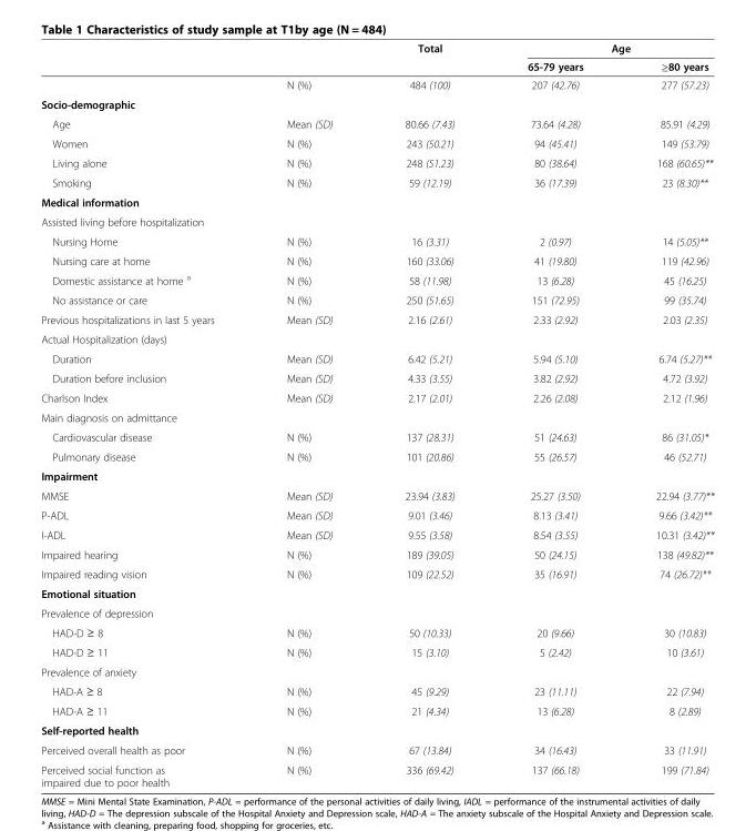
<table><thead><tr><td rowspan="2"></td><td rowspan="2"></td><td rowspan="2">Total</td><td colspan="2">Age</td></tr><tr><td>65-79 years</td><td>≥80 years</td></tr></thead><tbody><tr><td></td><td>N (%)</td><td>484 (100)</td><td>207 (42.76)</td><td>277 (57.23)</td></tr><tr><td colspan="5">Socio-demographic</td></tr><tr><td>Age</td><td>Mean (SD)</td><td>80.66 (7.43)</td><td>73.64 (4.28)</td><td>85.91 (4.29)</td></tr><tr><td>Women</td><td>N (%)</td><td>243 (50.21)</td><td>94 (45.41)</td><td>149 (53.79)</td></tr><tr><td>Living alone</td><td>N (%)</td><td>248 (51.23)</td><td>80 (38.64)</td><td>168 (60.65)**</td></tr><tr><td>Smoking</td><td>N (%)</td><td>59 (12.19)</td><td>36 (17.39)</td><td>23 (8.30)**</td></tr><tr><td colspan="5">Medical information</td></tr><tr><td colspan="5">Assisted living before hospitalization</td></tr><tr><td>Nursing Home</td><td>N (%)</td><td>16 (3.31)</td><td>2 (0.97)</td><td>14 (5.05)**</td></tr><tr><td>Nursing care at home</td><td>N (%)</td><td>160 (33.06)</td><td>41 (19.80)</td><td>119 (42.96)</td></tr><tr><td>Domestic assistance at home <sup>a</sup></td><td>N (%)</td><td>58 (11.98)</td><td>13 (6.28)</td><td>45 (16.25)</td></tr><tr><td>No assistance or care</td><td>N (%)</td><td>250 (51.65)</td><td>151 (72.95)</td><td>99 (35.74)</td></tr><tr><td>Previous hospitalizations in last 5 years</td><td>Mean (SD)</td><td>2.16 (2.61)</td><td>2.33 (2.92)</td><td>2.03 (2.35)</td></tr><tr><td colspan="5">Actual Hospitalization (days)</td></tr><tr><td>Duration</td><td>Mean (SD)</td><td>6.42 (5.21)</td><td>5.94 (5.10)</td><td>6.74 (5.27)**</td></tr><tr><td>Duration before inclusion</td><td>Mean (SD)</td><td>4.33 (3.55)</td><td>3.82 (2.92)</td><td>4.72 (3.92)</td></tr><tr><td>Charlson Index</td><td>Mean (SD)</td><td>2.17 (2.01)</td><td>2.26 (2.08)</td><td>2.12 (1.96)</td></tr><tr><td colspan="5">Main diagnosis on admittance</td></tr><tr><td>Cardiovascular disease</td><td>N (%)</td><td>137 (28.31)</td><td>51 (24.63)</td><td>86 (31.05)*</td></tr><tr><td>Pulmonary disease</td><td>N (%)</td><td>101 (20.86)</td><td>55 (26.57)</td><td>46 (52.71)</td></tr><tr><td colspan="5">Impairment</td></tr><tr><td>MMSE</td><td>Mean (SD)</td><td>23.94 (3.83)</td><td>25.27 (3.50)</td><td>22.94 (3.77)**</td></tr><tr><td>P-ADL</td><td>Mean (SD)</td><td>9.01 (3.46)</td><td>8.13 (3.41)</td><td>9.66 (3.42)**</td></tr><tr><td>I-ADL</td><td>Mean (SD)</td><td>9.55 (3.58)</td><td>8.54 (3.55)</td><td>10.31 (3.42)**</td></tr><tr><td>Impaired hearing</td><td>N (%)</td><td>189 (39.05)</td><td>50 (24.15)</td><td>138 (49.82)**</td></tr><tr><td>Impaired reading vision</td><td>N (%)</td><td>109 (22.52)</td><td>35 (16.91)</td><td>74 (26.72)**</td></tr><tr><td colspan="5">Emotional situation</td></tr><tr><td colspan="5">Prevalence of depression</td></tr><tr><td>HAD-D ≥ 8</td><td>N (%)</td><td>50 (10.33)</td><td>20 (9.66)</td><td>30 (10.83)</td></tr><tr><td>HAD-D ≥ 11</td><td>N (%)</td><td>15 (3.10)</td><td>5 (2.42)</td><td>10 (3.61)</td></tr><tr><td colspan="5">Prevalence of anxiety</td></tr><tr><td>HAD-A ≥ 8</td><td>N (%)</td><td>45 (9.29)</td><td>23 (11.11)</td><td>22 (7.94)</td></tr><tr><td>HAD-A ≥ 11</td><td>N (%)</td><td>21 (4.34)</td><td>13 (6.28)</td><td>8 (2.89)</td></tr><tr><td colspan="5">Self-reported health</td></tr><tr><td>Perceived overall health as poor</td><td>N (%)</td><td>67 (13.84)</td><td>34 (16.43)</td><td>33 (11.91)</td></tr><tr><td>Perceived social function as impaired due to poor health</td><td>N (%)</td><td>336 (69.42)</td><td>137 (66.18)</td><td>199 (71.84)</td></tr></tbody></table>